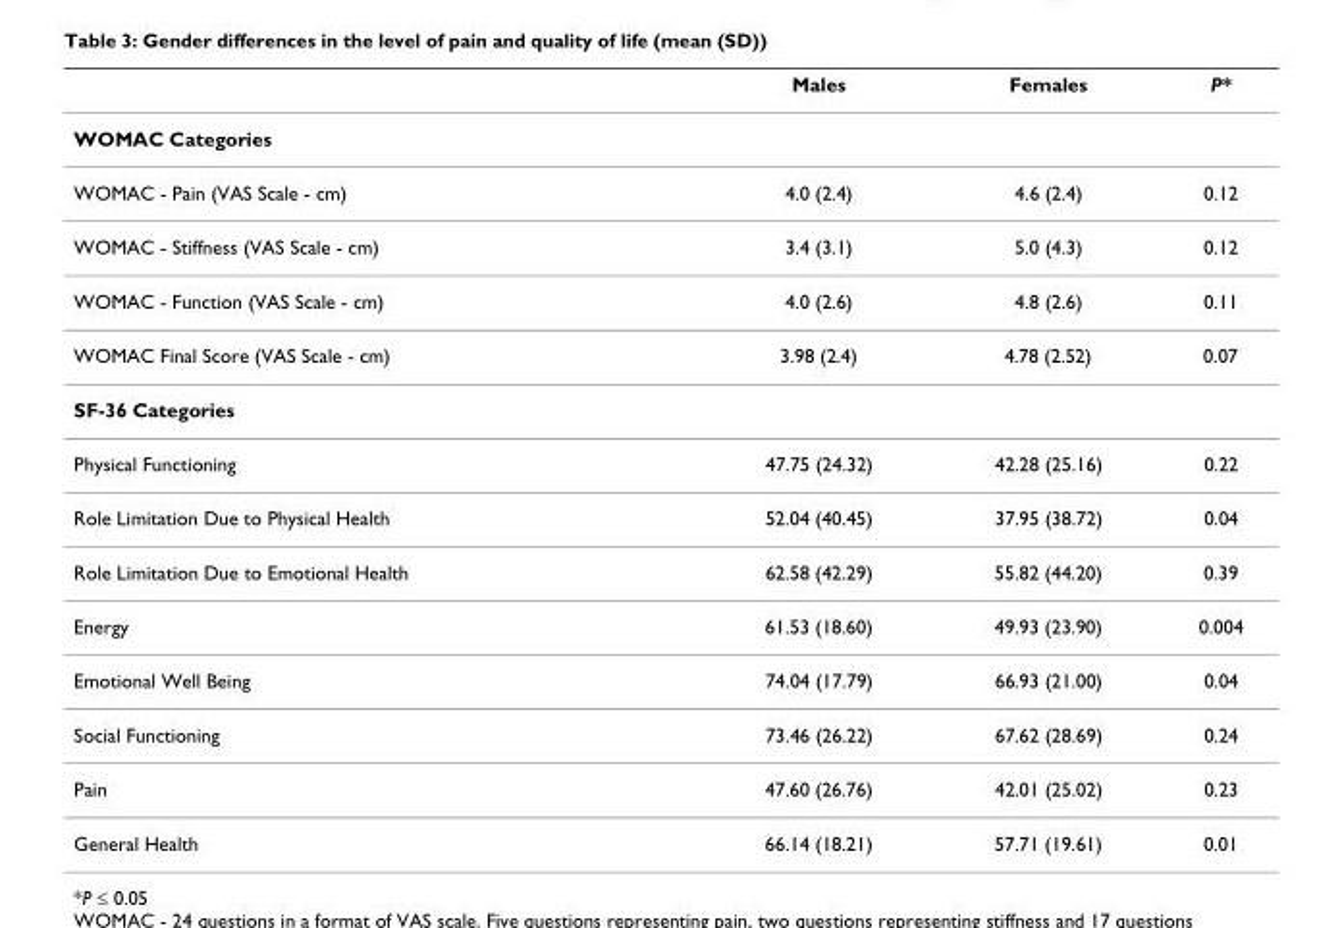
<table><thead><tr><td></td><td>Males</td><td>Females</td><td>P*</td></tr></thead><tbody><tr><td colspan="4">WOMAC Categories</td></tr><tr><td>WOMAC - Pain (VAS Scale - cm)</td><td>4.0 (2.4)</td><td>4.6 (2.4)</td><td>0.12</td></tr><tr><td>WOMAC - Stiffness (VAS Scale - cm)</td><td>3.4 (3.1)</td><td>5.0 (4.3)</td><td>0.12</td></tr><tr><td>WOMAC - Function (VAS Scale - cm)</td><td>4.0 (2.6)</td><td>4.8 (2.6)</td><td>0.11</td></tr><tr><td>WOMAC Final Score (VAS Scale - cm)</td><td>3.98 (2.4)</td><td>4.78 (2.52)</td><td>0.07</td></tr><tr><td colspan="4">SF-36 Categories</td></tr><tr><td>Physical Functioning</td><td>47.75 (24.32)</td><td>42.28 (25.16)</td><td>0.22</td></tr><tr><td>Role Limitation Due to Physical Health</td><td>52.04 (40.45)</td><td>37.95 (38.72)</td><td>0.04</td></tr><tr><td>Role Limitation Due to Emotional Health</td><td>62.58 (42.29)</td><td>55.82 (44.20)</td><td>0.39</td></tr><tr><td>Energy</td><td>61.53 (18.60)</td><td>49.93 (23.90)</td><td>0.004</td></tr><tr><td>Emotional Well Being</td><td>74.04 (17.79)</td><td>66.93 (21.00)</td><td>0.04</td></tr><tr><td>Social Functioning</td><td>73.46 (26.22)</td><td>67.62 (28.69)</td><td>0.24</td></tr><tr><td>Pain</td><td>47.60 (26.76)</td><td>42.01 (25.02)</td><td>0.23</td></tr><tr><td>General Health</td><td>66.14 (18.21)</td><td>57.71 (19.61)</td><td>0.01</td></tr></tbody></table>